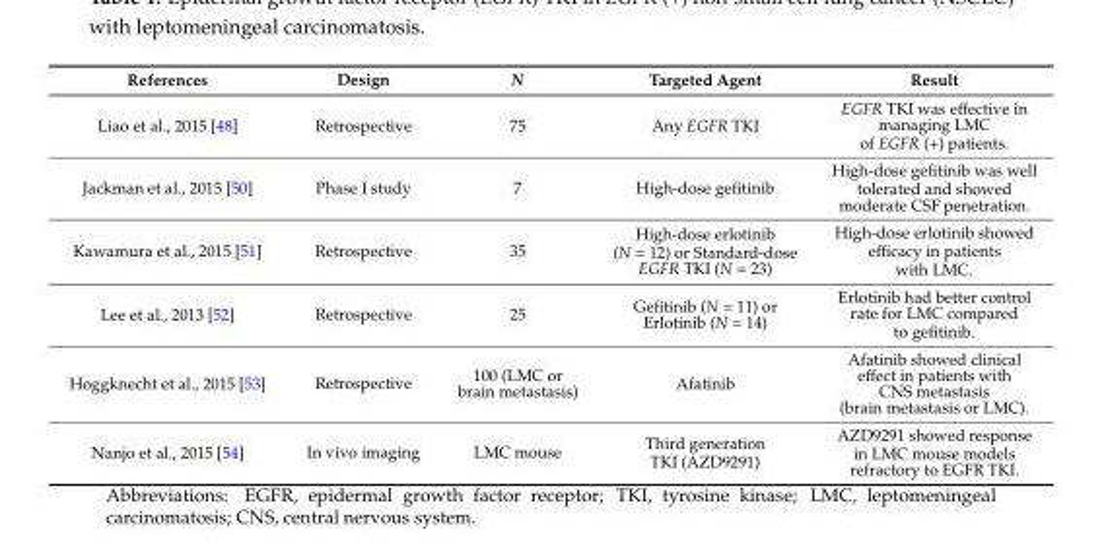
<table><thead><tr><td>References</td><td>Design</td><td>N</td><td>Targeted Agent</td><td>Result</td></tr></thead><tbody><tr><td>Liao et al., 2015 [48]</td><td>Retrospective</td><td>75</td><td>Any EGFR TKI</td><td>EGFR TKI was effective in managing LMC of EGFR (+) patients.</td></tr><tr><td>Jackman et al., 2015 [50]</td><td>Phase I study</td><td>7</td><td>High-dose gefitinib</td><td>High-dose gefitinib was well tolerated and showed moderate CSF penetration.</td></tr><tr><td>Kawamura et al., 2015 [51]</td><td>Retrospective</td><td>35</td><td>High-dose erlotinib (N = 12) or Standard-dose EGFR TKI (N = 23)</td><td>High-dose erlotinib showed efficacy in patients with LMC.</td></tr><tr><td>Lee et al., 2013 [52]</td><td>Retrospective</td><td>25</td><td>Gefitinib (N = 11) or Erlotinib (N = 14)</td><td>Erlotinib had better control rate for LMC compared to gefitinib.</td></tr><tr><td>Hoggknecht et al., 2015 [53]</td><td>Retrospective</td><td>100 (LMC or brain metastasis)</td><td>Afatinib</td><td>Afatinib showed clinical effect in patients with CNS metastasis (brain metastasis or LMC).</td></tr><tr><td>Nanjo et al., 2015 [54]</td><td>In vivo imaging</td><td>LMC mouse</td><td>Third generation TKI (AZD9291)</td><td>AZD9291 showed response in LMC mouse models refractory to EGFR TKI.</td></tr></tbody></table>